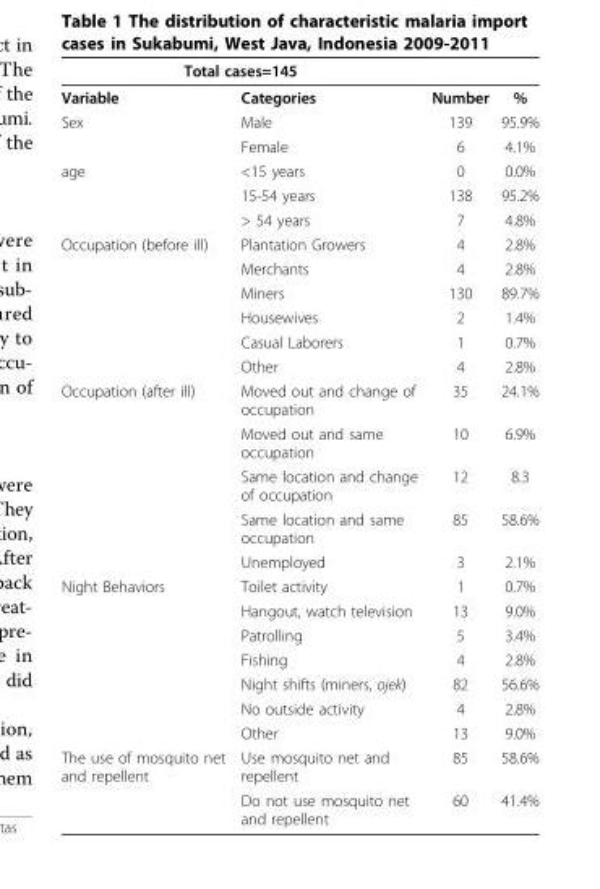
<table><thead><tr><td colspan="2">Total cases=145</td><td rowspan="2">Number</td><td rowspan="2">%</td></tr><tr><td>Variable</td><td>Categories</td></tr></thead><tbody><tr><td rowspan="2">Sex</td><td>Male</td><td>139</td><td>95.9%</td></tr><tr><td>Female</td><td>6</td><td>4.1%</td></tr><tr><td rowspan="3">age</td><td>&lt;15 years</td><td>0</td><td>0.0%</td></tr><tr><td>15-54 years</td><td>138</td><td>95.2%</td></tr><tr><td>&gt; 54 years</td><td>7</td><td>4.8%</td></tr><tr><td rowspan="6">Occupation (before ill)</td><td>Plantation Growers</td><td>4</td><td>2.8%</td></tr><tr><td>Merchants</td><td>4</td><td>2.8%</td></tr><tr><td>Miners</td><td>130</td><td>89.7%</td></tr><tr><td>Housewives</td><td>2</td><td>1.4%</td></tr><tr><td>Casual Laborers</td><td>1</td><td>0.7%</td></tr><tr><td>Other</td><td>4</td><td>2.8%</td></tr><tr><td rowspan="5">Occupation (after ill)</td><td>Moved out and change of occupation</td><td>35</td><td>24.1%</td></tr><tr><td>Moved out and same occupation</td><td>10</td><td>6.9%</td></tr><tr><td>Same location and change of occupation</td><td>12</td><td>8.3</td></tr><tr><td>Same location and same occupation</td><td>85</td><td>58.6%</td></tr><tr><td>Unemployed</td><td>3</td><td>2.1%</td></tr><tr><td rowspan="7">Night Behaviors</td><td>Toilet activity</td><td>1</td><td>0.7%</td></tr><tr><td>Hangout, watch television</td><td>13</td><td>9.0%</td></tr><tr><td>Patrolling</td><td>5</td><td>3.4%</td></tr><tr><td>Fishing</td><td>4</td><td>2.8%</td></tr><tr><td>Night shifts (miners, ojek)</td><td>82</td><td>56.6%</td></tr><tr><td>No outside activity</td><td>4</td><td>2.8%</td></tr><tr><td>Other</td><td>13</td><td>9.0%</td></tr><tr><td rowspan="2">The use of mosquito net and repellent</td><td>Use mosquito net and repellent</td><td>85</td><td>58.6%</td></tr><tr><td>Do not use mosquito net and repellent</td><td>60</td><td>41.4%</td></tr></tbody></table>